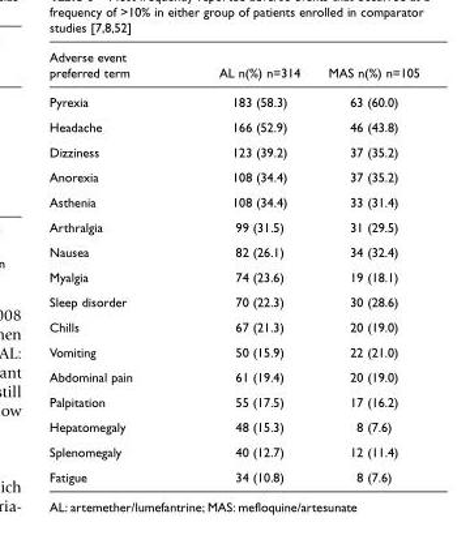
<table><thead><tr><td>Adverse event preferred term</td><td>AL n(%) n=314</td><td>MAS n(%) n=105</td></tr></thead><tbody><tr><td>Pyrexia</td><td>183 (58.3)</td><td>63 (60.0)</td></tr><tr><td>Headache</td><td>166 (52.9)</td><td>46 (43.8)</td></tr><tr><td>Dizziness</td><td>123 (39.2)</td><td>37 (35.2)</td></tr><tr><td>Anorexia</td><td>108 (34.4)</td><td>37 (35.2)</td></tr><tr><td>Asthenia</td><td>108 (34.4)</td><td>33 (31.4)</td></tr><tr><td>Arthralgia</td><td>99 (31.5)</td><td>31 (29.5)</td></tr><tr><td>Nausea</td><td>82 (26.1)</td><td>34 (32.4)</td></tr><tr><td>Myalgia</td><td>74 (23.6)</td><td>19 (18.1)</td></tr><tr><td>Sleep disorder</td><td>70 (22.3)</td><td>30 (28.6)</td></tr><tr><td>Chills</td><td>67 (21.3)</td><td>20 (19.0)</td></tr><tr><td>Vomiting</td><td>50 (15.9)</td><td>22 (21.0)</td></tr><tr><td>Abdominal pain</td><td>61 (19.4)</td><td>20 (19.0)</td></tr><tr><td>Palpitation</td><td>55 (17.5)</td><td>17 (16.2)</td></tr><tr><td>Hepatomegaly</td><td>48 (15.3)</td><td>8 (7.6)</td></tr><tr><td>Splenomegaly</td><td>40 (12.7)</td><td>12 (11.4)</td></tr><tr><td>Fatigue</td><td>34 (10.8)</td><td>8 (7.6)</td></tr></tbody></table>